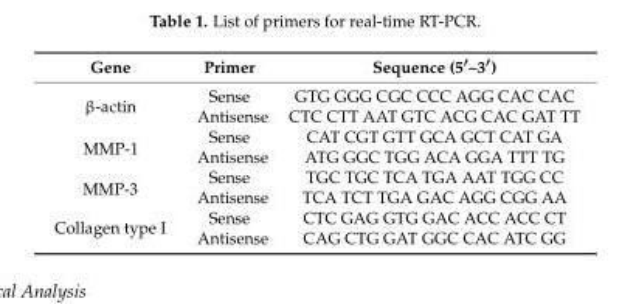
<table><thead><tr><td>Gene</td><td>Primer</td><td>Sequence (5′–3′)</td></tr></thead><tbody><tr><td rowspan="2">β-actin</td><td>Sense</td><td>GTG GGG CGC CCC AGG CAC CAC</td></tr><tr><td>Antisense</td><td>CTC CTT AAT GTC ACG CAC GAT TT</td></tr><tr><td rowspan="2">MMP-1</td><td>Sense</td><td>CAT CGT GTT GCA GCT CAT GA</td></tr><tr><td>Antisense</td><td>ATG GGC TGG ACA GGA TTT TG</td></tr><tr><td rowspan="2">MMP-3</td><td>Sense</td><td>TGC TGC TCA TGA AAT TGG CC</td></tr><tr><td>Antisense</td><td>TCA TCT TGA GAC AGG CGG AA</td></tr><tr><td rowspan="2">Collagen type I</td><td>Sense</td><td>CTC GAG GTG GAC ACC ACC CT</td></tr><tr><td>Antisense</td><td>CAG CTG GAT GGC CAC ATC GG</td></tr></tbody></table>